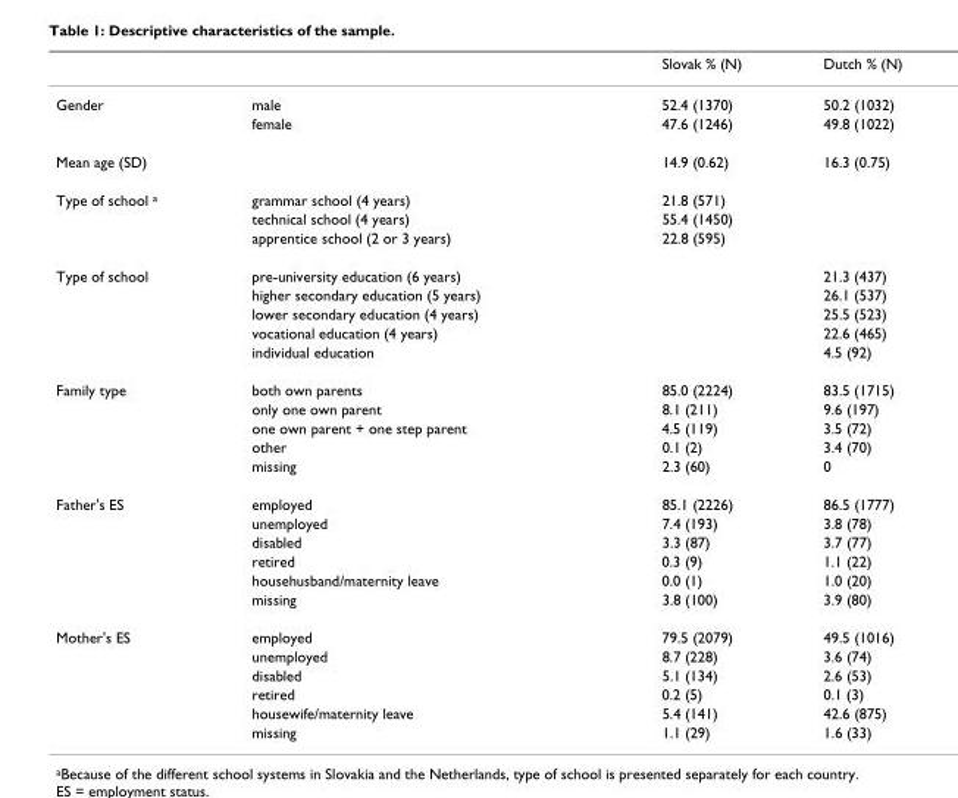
<table><thead><tr><td></td><td></td><td>Slovak % (N)</td><td>Dutch % (N)</td></tr></thead><tbody><tr><td rowspan="2">Gender</td><td>male</td><td>52.4 (1370)</td><td>50.2 (1032)</td></tr><tr><td>female</td><td>47.6 (1246)</td><td>49.8 (1022)</td></tr><tr><td>Mean age (SD)</td><td></td><td>14.9 (0.62)</td><td>16.3 (0.75)</td></tr><tr><td rowspan="3">Type of school a</td><td>grammar school (4 years)</td><td>21.8 (571)</td><td></td></tr><tr><td>technical school (4 years)</td><td>55.4 (1450)</td><td></td></tr><tr><td>apprentice school (2 or 3 years)</td><td>22.8 (595)</td><td></td></tr><tr><td rowspan="5">Type of school</td><td>pre-university education (6 years)</td><td></td><td>21.3 (437)</td></tr><tr><td>higher secondary education (5 years)</td><td></td><td>26.1 (537)</td></tr><tr><td>lower secondary education (4 years)</td><td></td><td>25.5 (523)</td></tr><tr><td>vocational education (4 years)</td><td></td><td>22.6 (465)</td></tr><tr><td>individual education</td><td></td><td>4.5 (92)</td></tr><tr><td rowspan="5">Family type</td><td>both own parents</td><td>85.0 (2224)</td><td>83.5 (1715)</td></tr><tr><td>only one own parent</td><td>8.1 (211)</td><td>9.6 (197)</td></tr><tr><td>one own parent + one step parent</td><td>4.5 (119)</td><td>3.5 (72)</td></tr><tr><td>other</td><td>0.1 (2)</td><td>3.4 (70)</td></tr><tr><td>missing</td><td>2.3 (60)</td><td>0</td></tr><tr><td rowspan="6">Father&#x27;s ES</td><td>employed</td><td>85.1 (2226)</td><td>86.5 (1777)</td></tr><tr><td>unemployed</td><td>7.4 (193)</td><td>3.8 (78)</td></tr><tr><td>disabled</td><td>3.3 (87)</td><td>3.7 (77)</td></tr><tr><td>retired</td><td>0.3 (9)</td><td>1.1 (22)</td></tr><tr><td>househusband/maternity leave</td><td>0.0 (1)</td><td>1.0 (20)</td></tr><tr><td>missing</td><td>3.8 (100)</td><td>3.9 (80)</td></tr><tr><td rowspan="6">Mother&#x27;s ES</td><td>employed</td><td>79.5 (2079)</td><td>49.5 (1016)</td></tr><tr><td>unemployed</td><td>8.7 (228)</td><td>3.6 (74)</td></tr><tr><td>disabled</td><td>5.1 (134)</td><td>2.6 (53)</td></tr><tr><td>retired</td><td>0.2 (5)</td><td>0.1 (3)</td></tr><tr><td>housewife/maternity leave</td><td>5.4 (141)</td><td>42.6 (875)</td></tr><tr><td>missing</td><td>1.1 (29)</td><td>1.6 (33)</td></tr></tbody></table>